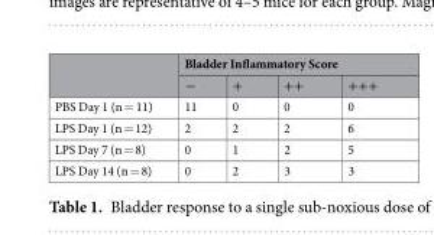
<table><thead><tr><td rowspan="2"></td><td colspan="4">Bladder Inflammatory Score</td></tr><tr><td>−</td><td>+</td><td>++</td><td>+++</td></tr></thead><tbody><tr><td>PBS Day 1 (n = 11)</td><td>11</td><td>0</td><td>0</td><td>0</td></tr><tr><td>LPS Day 1 (n = 12)</td><td>2</td><td>2</td><td>2</td><td>6</td></tr><tr><td>LPS Day 7 (n = 8)</td><td>0</td><td>1</td><td>2</td><td>5</td></tr><tr><td>LPS Day 14 (n = 8)</td><td>0</td><td>2</td><td>3</td><td>3</td></tr></tbody></table>